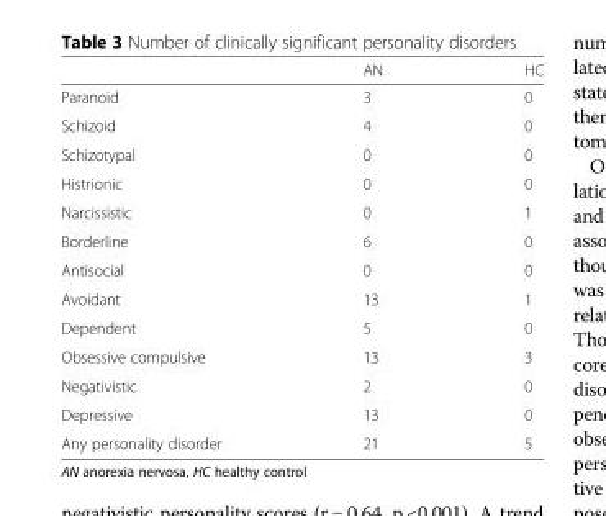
<table><thead><tr><td></td><td>AN</td><td>HC</td></tr></thead><tbody><tr><td>Paranoid</td><td>3</td><td>0</td></tr><tr><td>Schizoid</td><td>4</td><td>0</td></tr><tr><td>Schizotypal</td><td>0</td><td>0</td></tr><tr><td>Histrionic</td><td>0</td><td>0</td></tr><tr><td>Narcissistic</td><td>0</td><td>1</td></tr><tr><td>Borderline</td><td>6</td><td>0</td></tr><tr><td>Antisocial</td><td>0</td><td>0</td></tr><tr><td>Avoidant</td><td>13</td><td>1</td></tr><tr><td>Dependent</td><td>5</td><td>0</td></tr><tr><td>Obsessive compulsive</td><td>13</td><td>3</td></tr><tr><td>Negativistic</td><td>2</td><td>0</td></tr><tr><td>Depressive</td><td>13</td><td>0</td></tr><tr><td>Any personality disorder</td><td>21</td><td>5</td></tr></tbody></table>